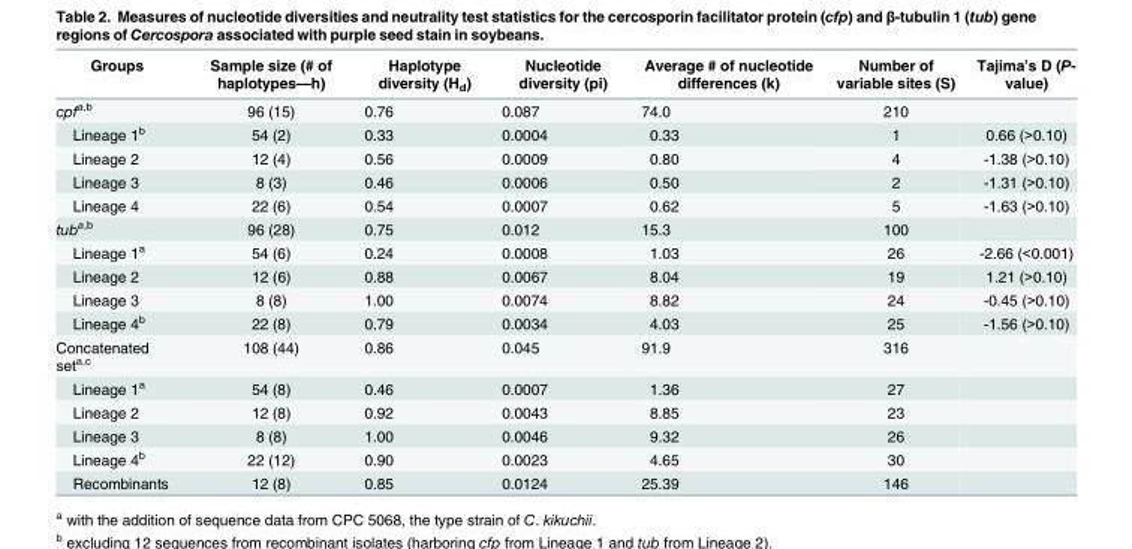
<table><thead><tr><td>Groups</td><td>Sample size (# of haplotypes—h)</td><td>Haplotype diversity (H<sub>d</sub>)</td><td>Nucleotide diversity (pi)</td><td>Average # of nucleotide differences (k)</td><td>Number of variable sites (S)</td><td>Tajima’s D (P- value)</td></tr></thead><tbody><tr><td>cpf<sup>a,b</sup></td><td>96 (15)</td><td>0.76</td><td>0.087</td><td>74.0</td><td>210</td><td></td></tr><tr><td>Lineage 1<sup>b</sup></td><td>54 (2)</td><td>0.33</td><td>0.0004</td><td>0.33</td><td>1</td><td>0.66 (&gt;0.10)</td></tr><tr><td>Lineage 2</td><td>12 (4)</td><td>0.56</td><td>0.0009</td><td>0.80</td><td>4</td><td>-1.38 (&gt;0.10)</td></tr><tr><td>Lineage 3</td><td>8 (3)</td><td>0.46</td><td>0.0006</td><td>0.50</td><td>2</td><td>-1.31 (&gt;0.10)</td></tr><tr><td>Lineage 4</td><td>22 (6)</td><td>0.54</td><td>0.0007</td><td>0.62</td><td>5</td><td>-1.63 (&gt;0.10)</td></tr><tr><td>tub<sup>a,b</sup></td><td>96 (28)</td><td>0.75</td><td>0.012</td><td>15.3</td><td>100</td><td></td></tr><tr><td>Lineage 1<sup>a</sup></td><td>54 (6)</td><td>0.24</td><td>0.0008</td><td>1.03</td><td>26</td><td>-2.66 (&lt;0.001)</td></tr><tr><td>Lineage 2</td><td>12 (6)</td><td>0.88</td><td>0.0067</td><td>8.04</td><td>19</td><td>1.21 (&gt;0.10)</td></tr><tr><td>Lineage 3</td><td>8 (8)</td><td>1.00</td><td>0.0074</td><td>8.82</td><td>24</td><td>-0.45 (&gt;0.10)</td></tr><tr><td>Lineage 4<sup>b</sup></td><td>22 (8)</td><td>0.79</td><td>0.0034</td><td>4.03</td><td>25</td><td>-1.56 (&gt;0.10)</td></tr><tr><td>Concatenated set<sup>a,c</sup></td><td>108 (44)</td><td>0.86</td><td>0.045</td><td>91.9</td><td>316</td><td></td></tr><tr><td>Lineage 1<sup>a</sup></td><td>54 (8)</td><td>0.46</td><td>0.0007</td><td>1.36</td><td>27</td><td></td></tr><tr><td>Lineage 2</td><td>12 (8)</td><td>0.92</td><td>0.0043</td><td>8.85</td><td>23</td><td></td></tr><tr><td>Lineage 3</td><td>8 (8)</td><td>1.00</td><td>0.0046</td><td>9.32</td><td>26</td><td></td></tr><tr><td>Lineage 4<sup>b</sup></td><td>22 (12)</td><td>0.90</td><td>0.0023</td><td>4.65</td><td>30</td><td></td></tr><tr><td>Recombinants</td><td>12 (8)</td><td>0.85</td><td>0.0124</td><td>25.39</td><td>146</td><td></td></tr></tbody></table>